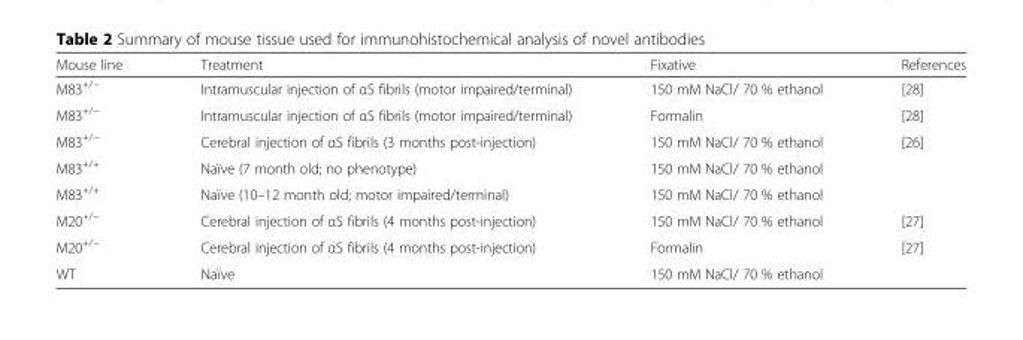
<table><thead><tr><td>Mouse line</td><td>Treatment</td><td>Fixative</td><td>References</td></tr></thead><tbody><tr><td>M83<sup>+/−</sup></td><td>Intramuscular injection of αS fibrils (motor impaired/terminal)</td><td>150 mM NaCl/ 70 % ethanol</td><td>[28]</td></tr><tr><td>M83<sup>+/−</sup></td><td>Intramuscular injection of αS fibrils (motor impaired/terminal)</td><td>Formalin</td><td>[28]</td></tr><tr><td>M83<sup>+/−</sup></td><td>Cerebral injection of αS fibrils (3 months post-injection)</td><td>150 mM NaCl/ 70 % ethanol</td><td>[26]</td></tr><tr><td>M83<sup>+/+</sup></td><td>Naïve (7 month old; no phenotype)</td><td>150 mM NaCl/ 70 % ethanol</td><td></td></tr><tr><td>M83<sup>+/+</sup></td><td>Naïve (10–12 month old; motor impaired/terminal)</td><td>150 mM NaCl/ 70 % ethanol</td><td></td></tr><tr><td>M20<sup>+/−</sup></td><td>Cerebral injection of αS fibrils (4 months post-injection)</td><td>150 mM NaCl/ 70 % ethanol</td><td>[27]</td></tr><tr><td>M20<sup>+/−</sup></td><td>Cerebral injection of αS fibrils (4 months post-injection)</td><td>Formalin</td><td>[27]</td></tr><tr><td>WT</td><td>Naïve</td><td>150 mM NaCl/ 70 % ethanol</td><td></td></tr></tbody></table>